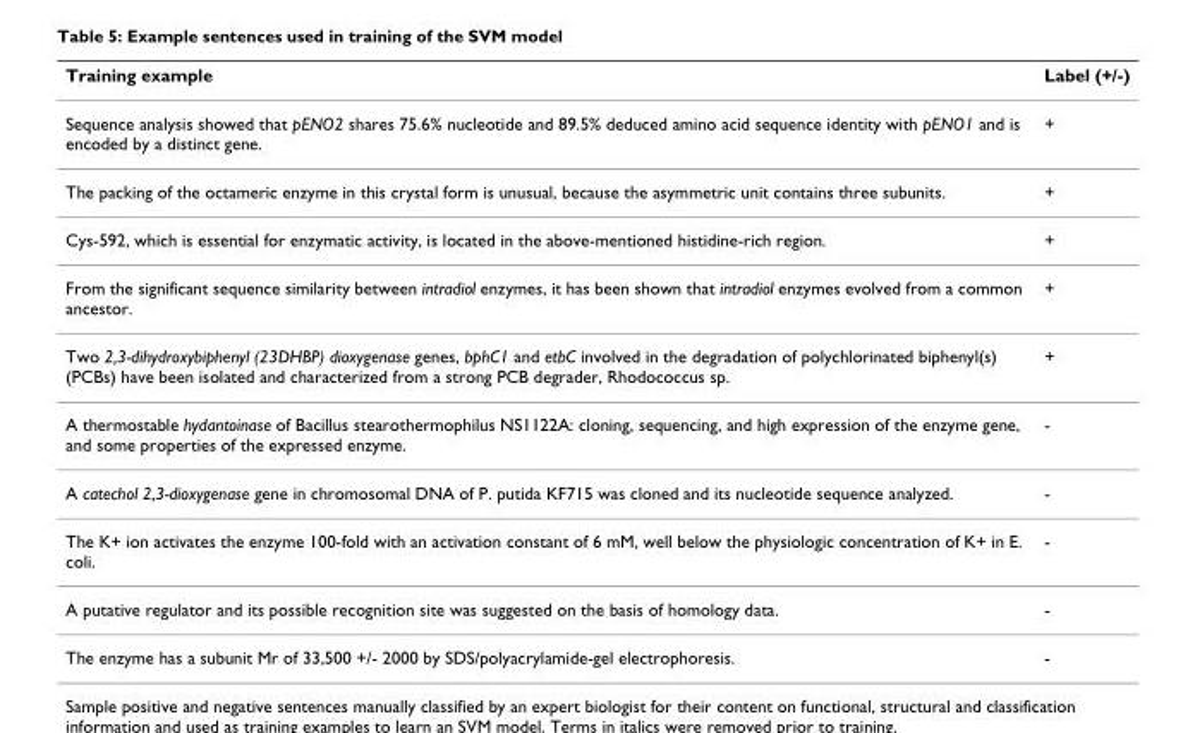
<table><thead><tr><td>Training example</td><td>Label (+/-)</td></tr></thead><tbody><tr><td>Sequence analysis showed that pENO2 shares 75.6% nucleotide and 89.5% deduced amino acid sequence identity with pENO1 and is encoded by a distinct gene.</td><td>+</td></tr><tr><td>The packing of the octameric enzyme in this crystal form is unusual, because the asymmetric unit contains three subunits.</td><td>+</td></tr><tr><td>Cys-592, which is essential for enzymatic activity, is located in the above-mentioned histidine-rich region.</td><td>+</td></tr><tr><td>From the significant sequence similarity between intradiol enzymes, it has been shown that intradiol enzymes evolved from a common ancestor.</td><td>+</td></tr><tr><td>Two 2,3-dihydroxybiphenyl (23DHBP) dioxygenase genes, bphC1 and etbC involved in the degradation of polychlorinated biphenyl(s) (PCBs) have been isolated and characterized from a strong PCB degrader, Rhodococcus sp.</td><td>+</td></tr><tr><td>A thermostable hydantoinase of Bacillus stearothermophilus NS1122A: cloning, sequencing, and high expression of the enzyme gene, and some properties of the expressed enzyme.</td><td>-</td></tr><tr><td>A catechol 2,3-dioxygenase gene in chromosomal DNA of P. putida KF715 was cloned and its nucleotide sequence analyzed.</td><td>-</td></tr><tr><td>The K+ ion activates the enzyme 100-fold with an activation constant of 6 mM, well below the physiologic concentration of K+ in E. coli.</td><td>-</td></tr><tr><td>A putative regulator and its possible recognition site was suggested on the basis of homology data.</td><td>-</td></tr><tr><td>The enzyme has a subunit Mr of 33,500 +/- 2000 by SDS/polyacrylamide-gel electrophoresis.</td><td>-</td></tr></tbody></table>